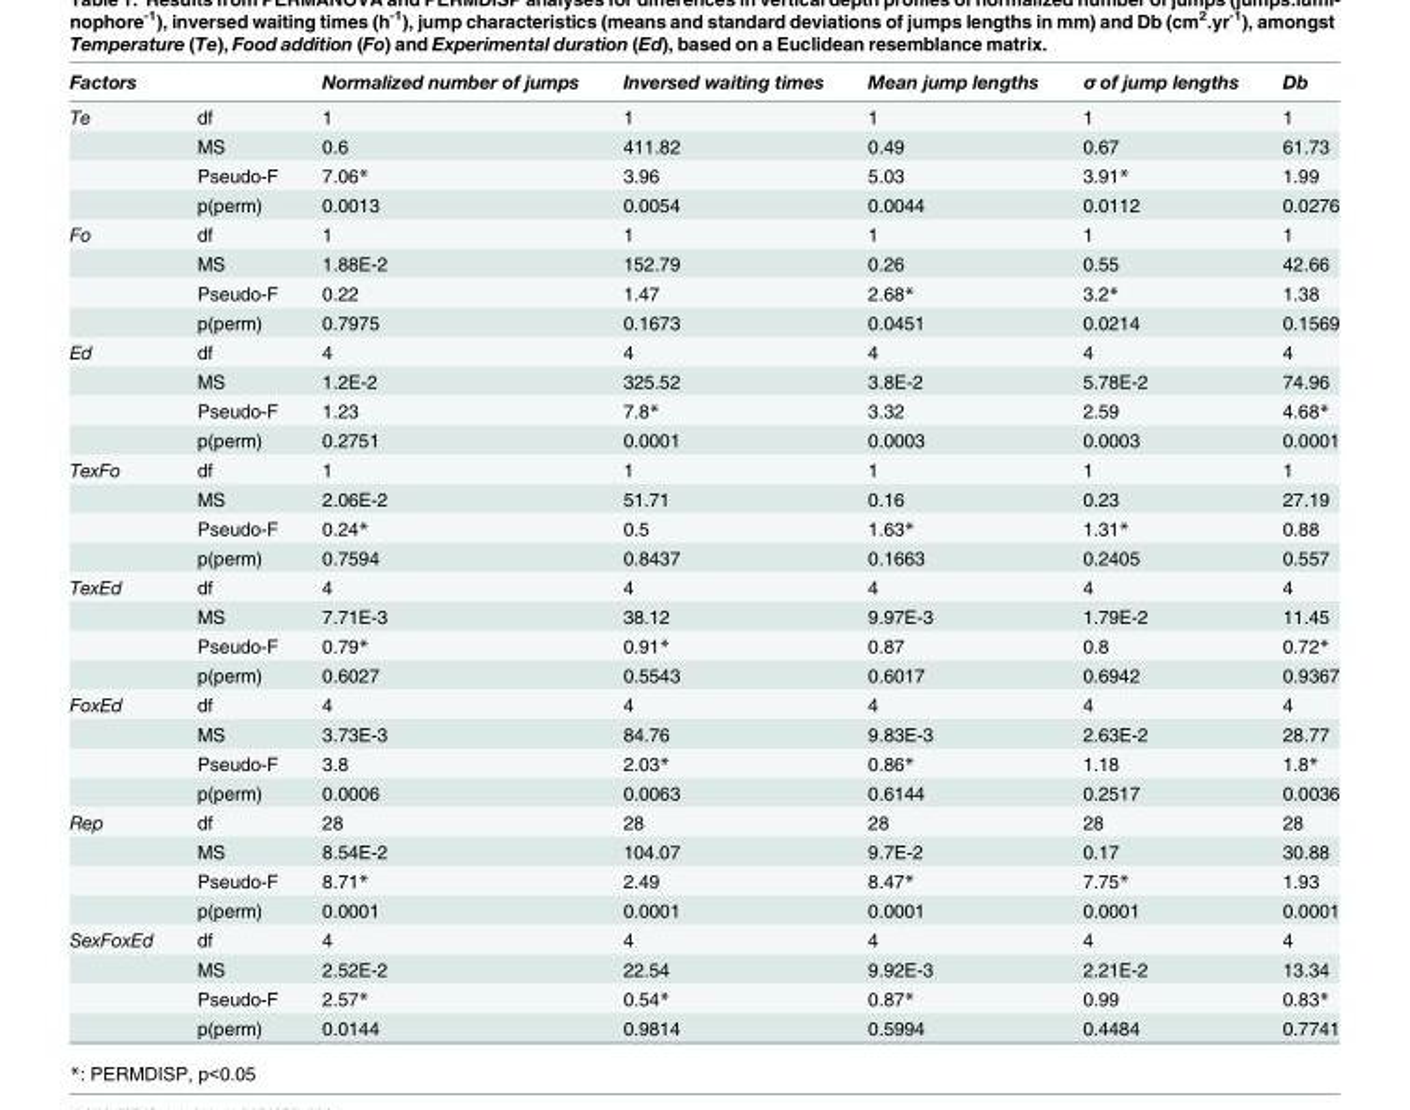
<table><thead><tr><td>Factors</td><td></td><td>Normalized number of jumps</td><td>Inversed waiting times</td><td>Mean jump lengths</td><td>σ of jump lengths</td><td>Db</td></tr></thead><tbody><tr><td rowspan="4">Te</td><td>df</td><td>1</td><td>1</td><td>1</td><td>1</td><td>1</td></tr><tr><td>MS</td><td>0.6</td><td>411.82</td><td>0.49</td><td>0.67</td><td>61.73</td></tr><tr><td>Pseudo-F</td><td>7.06*</td><td>3.96</td><td>5.03</td><td>3.91*</td><td>1.99</td></tr><tr><td>p(perm)</td><td>0.0013</td><td>0.0054</td><td>0.0044</td><td>0.0112</td><td>0.0276</td></tr><tr><td rowspan="4">Fo</td><td>df</td><td>1</td><td>1</td><td>1</td><td>1</td><td>1</td></tr><tr><td>MS</td><td>1.88E-2</td><td>152.79</td><td>0.26</td><td>0.55</td><td>42.66</td></tr><tr><td>Pseudo-F</td><td>0.22</td><td>1.47</td><td>2.68*</td><td>3.2*</td><td>1.38</td></tr><tr><td>p(perm)</td><td>0.7975</td><td>0.1673</td><td>0.0451</td><td>0.0214</td><td>0.1569</td></tr><tr><td rowspan="4">Ed</td><td>df</td><td>4</td><td>4</td><td>4</td><td>4</td><td>4</td></tr><tr><td>MS</td><td>1.2E-2</td><td>325.52</td><td>3.8E-2</td><td>5.78E-2</td><td>74.96</td></tr><tr><td>Pseudo-F</td><td>1.23</td><td>7.8*</td><td>3.32</td><td>2.59</td><td>4.68*</td></tr><tr><td>p(perm)</td><td>0.2751</td><td>0.0001</td><td>0.0003</td><td>0.0003</td><td>0.0001</td></tr><tr><td rowspan="4">TexFo</td><td>df</td><td>1</td><td>1</td><td>1</td><td>1</td><td>1</td></tr><tr><td>MS</td><td>2.06E-2</td><td>51.71</td><td>0.16</td><td>0.23</td><td>27.19</td></tr><tr><td>Pseudo-F</td><td>0.24*</td><td>0.5</td><td>1.63*</td><td>1.31*</td><td>0.88</td></tr><tr><td>p(perm)</td><td>0.7594</td><td>0.8437</td><td>0.1663</td><td>0.2405</td><td>0.557</td></tr><tr><td rowspan="4">TexEd</td><td>df</td><td>4</td><td>4</td><td>4</td><td>4</td><td>4</td></tr><tr><td>MS</td><td>7.71E-3</td><td>38.12</td><td>9.97E-3</td><td>1.79E-2</td><td>11.45</td></tr><tr><td>Pseudo-F</td><td>0.79*</td><td>0.91*</td><td>0.87</td><td>0.8</td><td>0.72*</td></tr><tr><td>p(perm)</td><td>0.6027</td><td>0.5543</td><td>0.6017</td><td>0.6942</td><td>0.9367</td></tr><tr><td rowspan="4">FoxEd</td><td>df</td><td>4</td><td>4</td><td>4</td><td>4</td><td>4</td></tr><tr><td>MS</td><td>3.73E-3</td><td>84.76</td><td>9.83E-3</td><td>2.63E-2</td><td>28.77</td></tr><tr><td>Pseudo-F</td><td>3.8</td><td>2.03*</td><td>0.86*</td><td>1.18</td><td>1.8*</td></tr><tr><td>p(perm)</td><td>0.0006</td><td>0.0063</td><td>0.6144</td><td>0.2517</td><td>0.0036</td></tr><tr><td rowspan="4">Rep</td><td>df</td><td>28</td><td>28</td><td>28</td><td>28</td><td>28</td></tr><tr><td>MS</td><td>8.54E-2</td><td>104.07</td><td>9.7E-2</td><td>0.17</td><td>30.88</td></tr><tr><td>Pseudo-F</td><td>8.71*</td><td>2.49</td><td>8.47*</td><td>7.75*</td><td>1.93</td></tr><tr><td>p(perm)</td><td>0.0001</td><td>0.0001</td><td>0.0001</td><td>0.0001</td><td>0.0001</td></tr><tr><td rowspan="4">SexFoxEd</td><td>df</td><td>4</td><td>4</td><td>4</td><td>4</td><td>4</td></tr><tr><td>MS</td><td>2.52E-2</td><td>22.54</td><td>9.92E-3</td><td>2.21E-2</td><td>13.34</td></tr><tr><td>Pseudo-F</td><td>2.57*</td><td>0.54*</td><td>0.87*</td><td>0.99</td><td>0.83*</td></tr><tr><td>p(perm)</td><td>0.0144</td><td>0.9814</td><td>0.5994</td><td>0.4484</td><td>0.7741</td></tr></tbody></table>